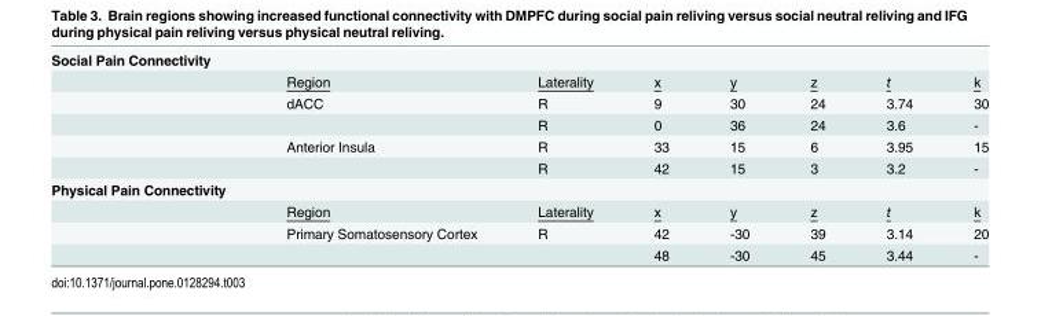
<table><tbody><tr><td colspan="8">Social Pain Connectivity</td></tr><tr><td></td><td>Region</td><td>Laterality</td><td>x</td><td>y</td><td>z</td><td>t</td><td>k</td></tr><tr><td></td><td>dACC</td><td>R</td><td>9</td><td>30</td><td>24</td><td>3.74</td><td>30</td></tr><tr><td></td><td></td><td>R</td><td>0</td><td>36</td><td>24</td><td>3.6</td><td>-</td></tr><tr><td></td><td>Anterior Insula</td><td>R</td><td>33</td><td>15</td><td>6</td><td>3.95</td><td>15</td></tr><tr><td></td><td></td><td>R</td><td>42</td><td>15</td><td>3</td><td>3.2</td><td>-</td></tr><tr><td colspan="8">Physical Pain Connectivity</td></tr><tr><td></td><td>Region</td><td>Laterality</td><td>x</td><td>y</td><td>z</td><td>t</td><td>k</td></tr><tr><td></td><td>Primary Somatosensory Cortex</td><td>R</td><td>42</td><td>-30</td><td>39</td><td>3.14</td><td>20</td></tr><tr><td></td><td></td><td></td><td>48</td><td>-30</td><td>45</td><td>3.44</td><td>-</td></tr></tbody></table>